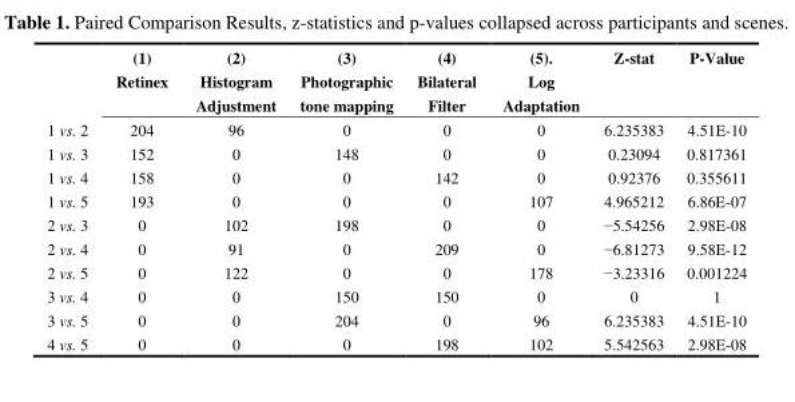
<table><thead><tr><td></td><td>(1) Retinex</td><td>(2) Histogram Adjustment</td><td>(3) Photographic tone mapping</td><td>(4) Bilateral Filter</td><td>(5). Log Adaptation</td><td>Z-stat</td><td>P-Value</td></tr></thead><tbody><tr><td>1 vs. 2</td><td>204</td><td>96</td><td>0</td><td>0</td><td>0</td><td>6.235383</td><td>4.51E-10</td></tr><tr><td>1 vs. 3</td><td>152</td><td>0</td><td>148</td><td>0</td><td>0</td><td>0.23094</td><td>0.817361</td></tr><tr><td>1 vs. 4</td><td>158</td><td>0</td><td>0</td><td>142</td><td>0</td><td>0.92376</td><td>0.355611</td></tr><tr><td>1 vs. 5</td><td>193</td><td>0</td><td>0</td><td>0</td><td>107</td><td>4.965212</td><td>6.86E-07</td></tr><tr><td>2 vs. 3</td><td>0</td><td>102</td><td>198</td><td>0</td><td>0</td><td>−5.54256</td><td>2.98E-08</td></tr><tr><td>2 vs. 4</td><td>0</td><td>91</td><td>0</td><td>209</td><td>0</td><td>−6.81273</td><td>9.58E-12</td></tr><tr><td>2 vs. 5</td><td>0</td><td>122</td><td>0</td><td>0</td><td>178</td><td>−3.23316</td><td>0.001224</td></tr><tr><td>3 vs. 4</td><td>0</td><td>0</td><td>150</td><td>150</td><td>0</td><td>0</td><td>1</td></tr><tr><td>3 vs. 5</td><td>0</td><td>0</td><td>204</td><td>0</td><td>96</td><td>6.235383</td><td>4.51E-10</td></tr><tr><td>4 vs. 5</td><td>0</td><td>0</td><td>0</td><td>198</td><td>102</td><td>5.542563</td><td>2.98E-08</td></tr></tbody></table>